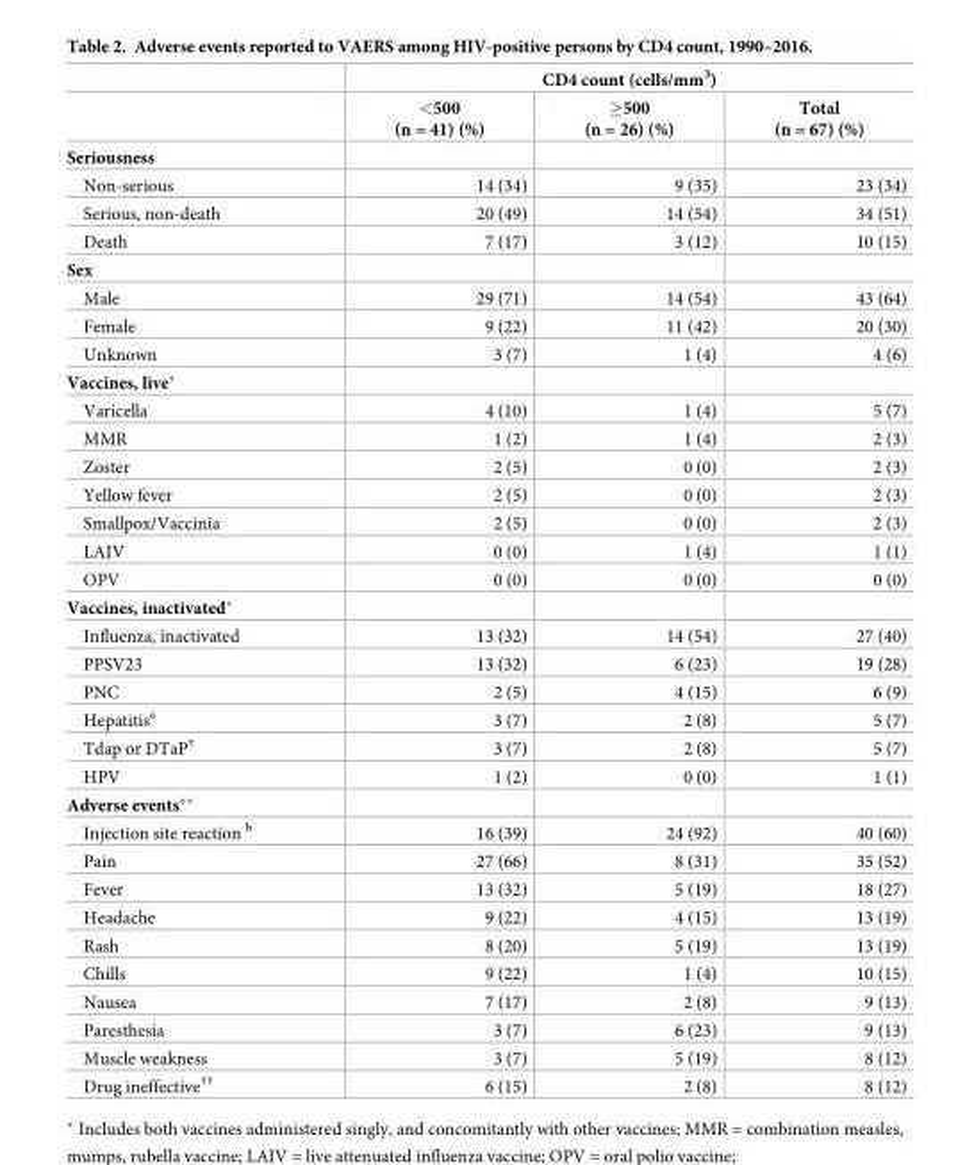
<table><thead><tr><td rowspan="2"></td><td colspan="3">CD4 count (cells/mm<sup>3</sup>)</td></tr><tr><td>&lt;500 (n = 41) (%)</td><td>≥500 (n = 26) (%)</td><td>Total (n = 67) (%)</td></tr></thead><tbody><tr><td colspan="4">Seriousness</td></tr><tr><td>Non-serious</td><td>14 (34)</td><td>9 (35)</td><td>23 (34)</td></tr><tr><td>Serious, non-death</td><td>20 (49)</td><td>14 (54)</td><td>34 (51)</td></tr><tr><td>Death</td><td>7 (17)</td><td>3 (12)</td><td>10 (15)</td></tr><tr><td colspan="4">Sex</td></tr><tr><td>Male</td><td>29 (71)</td><td>14 (54)</td><td>43 (64)</td></tr><tr><td>Female</td><td>9 (22)</td><td>11 (42)</td><td>20 (30)</td></tr><tr><td>Unknown</td><td>3 (7)</td><td>1 (4)</td><td>4 (6)</td></tr><tr><td colspan="4">Vaccines, live*</td></tr><tr><td>Varicella</td><td>4 (10)</td><td>1 (4)</td><td>5 (7)</td></tr><tr><td>MMR</td><td>1 (2)</td><td>1 (4)</td><td>2 (3)</td></tr><tr><td>Zoster</td><td>2 (5)</td><td>0 (0)</td><td>2 (3)</td></tr><tr><td>Yellow fever</td><td>2 (5)</td><td>0 (0)</td><td>2 (3)</td></tr><tr><td>Smallpox/Vaccinia</td><td>2 (5)</td><td>0 (0)</td><td>2 (3)</td></tr><tr><td>LAIV</td><td>0 (0)</td><td>1 (4)</td><td>1 (1)</td></tr><tr><td>OPV</td><td>0 (0)</td><td>0 (0)</td><td>0 (0)</td></tr><tr><td colspan="4">Vaccines, inactivated*</td></tr><tr><td>Influenza, inactivated</td><td>13 (32)</td><td>14 (54)</td><td>27 (40)</td></tr><tr><td>PPSV23</td><td>13 (32)</td><td>6 (23)</td><td>19 (28)</td></tr><tr><td>PNC</td><td>2 (5)</td><td>4 (15)</td><td>6 (9)</td></tr><tr><td>Hepatitis<sup>a</sup></td><td>3 (7)</td><td>2 (8)</td><td>5 (7)</td></tr><tr><td>Tdap or DTaP<sup>†</sup></td><td>3 (7)</td><td>2 (8)</td><td>5 (7)</td></tr><tr><td>HPV</td><td>1 (2)</td><td>0 (0)</td><td>1 (1)</td></tr><tr><td colspan="4">Adverse events**</td></tr><tr><td>Injection site reaction <sup>b</sup></td><td>16 (39)</td><td>24 (92)</td><td>40 (60)</td></tr><tr><td>Pain</td><td>27 (66)</td><td>8 (31)</td><td>35 (52)</td></tr><tr><td>Fever</td><td>13 (32)</td><td>5 (19)</td><td>18 (27)</td></tr><tr><td>Headache</td><td>9 (22)</td><td>4 (15)</td><td>13 (19)</td></tr><tr><td>Rash</td><td>8 (20)</td><td>5 (19)</td><td>13 (19)</td></tr><tr><td>Chills</td><td>9 (22)</td><td>1 (4)</td><td>10 (15)</td></tr><tr><td>Nausea</td><td>7 (17)</td><td>2 (8)</td><td>9 (13)</td></tr><tr><td>Paresthesia</td><td>3 (7)</td><td>6 (23)</td><td>9 (13)</td></tr><tr><td>Muscle weakness</td><td>3 (7)</td><td>5 (19)</td><td>8 (12)</td></tr><tr><td>Drug ineffective<sup>††</sup></td><td>6 (15)</td><td>2 (8)</td><td>8 (12)</td></tr></tbody></table>